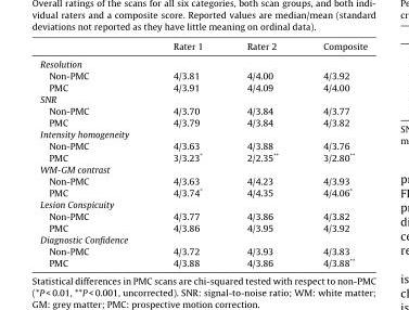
<table><thead><tr><td></td><td>Rater 1</td><td>Rater 2</td><td>Composite</td></tr></thead><tbody><tr><td colspan="4">Resolution</td></tr><tr><td>Non-PMC</td><td>4/3.81</td><td>4/4.00</td><td>4/3.92</td></tr><tr><td>PMC</td><td>4/3.91</td><td>4/4.09</td><td>4/4.00</td></tr><tr><td colspan="4">SNR</td></tr><tr><td>Non-PMC</td><td>4/3.70</td><td>4/3.84</td><td>4/3.77</td></tr><tr><td>PMC</td><td>4/3.79</td><td>4/3.84</td><td>4/3.82</td></tr><tr><td colspan="4">Intensity homogeneity</td></tr><tr><td>Non-PMC</td><td>4/3.63</td><td>4/3.88</td><td>4/3.76</td></tr><tr><td>PMC</td><td>3/3.23*</td><td>2/2.35**</td><td>3/2.80**</td></tr><tr><td colspan="4">WM-GM contrast</td></tr><tr><td>Non-PMC</td><td>4/3.63</td><td>4/4.23</td><td>4/3.93</td></tr><tr><td>PMC</td><td>4/3.74*</td><td>4/4.35</td><td>4/4.06*</td></tr><tr><td colspan="4">Lesion Conspicuity</td></tr><tr><td>Non-PMC</td><td>4/3.77</td><td>4/3.86</td><td>4/3.82</td></tr><tr><td>PMC</td><td>4/3.86</td><td>4/3.95</td><td>4/3.92</td></tr><tr><td colspan="4">Diagnostic Confidence</td></tr><tr><td>Non-PMC</td><td>4/3.72</td><td>4/3.93</td><td>4/3.83</td></tr><tr><td>PMC</td><td>4/3.88</td><td>4/3.86</td><td>4/3.88**</td></tr></tbody></table>